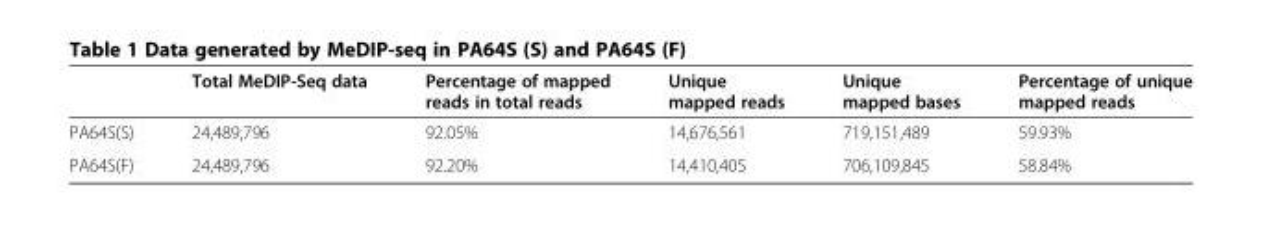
<table><thead><tr><td></td><td>Total MeDIP-Seq data</td><td>Percentage of mapped reads in total reads</td><td>Unique mapped reads</td><td>Unique mapped bases</td><td>Percentage of unique mapped reads</td></tr></thead><tbody><tr><td>PA64S(S)</td><td>24,489,796</td><td>92.05%</td><td>14,676,561</td><td>719,151,489</td><td>59.93%</td></tr><tr><td>PA64S(F)</td><td>24,489,796</td><td>92.20%</td><td>14,410,405</td><td>706,109,845</td><td>58.84%</td></tr></tbody></table>